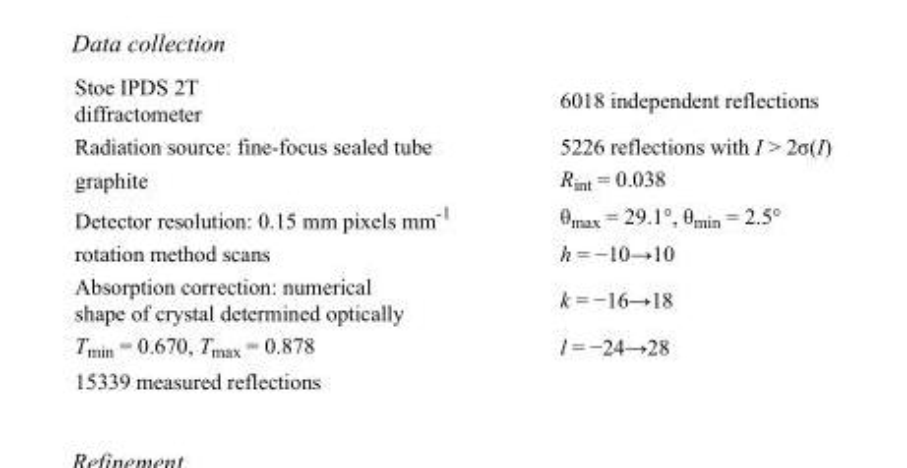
<table><tbody><tr><td>Stoe IPDS 2T diffractometer</td><td>6018 independent reflections</td></tr><tr><td>Radiation source: fine-focus sealed tube</td><td>5226 reflections with I &gt; 2σ(I)</td></tr><tr><td>graphite</td><td>R<sub>int</sub> = 0.038</td></tr><tr><td>Detector resolution: 0.15 mm pixels mm<sup>-1</sup></td><td>θ<sub>max</sub> = 29.1°, θ<sub>min</sub> = 2.5°</td></tr><tr><td>rotation method scans</td><td>h = −10→10</td></tr><tr><td>Absorption correction: numerical shape of crystal determined optically</td><td>k = −16→18</td></tr><tr><td>T<sub>min</sub> = 0.670, T<sub>max</sub> = 0.878</td><td>l = −24→28</td></tr><tr><td>15339 measured reflections</td><td></td></tr></tbody></table>